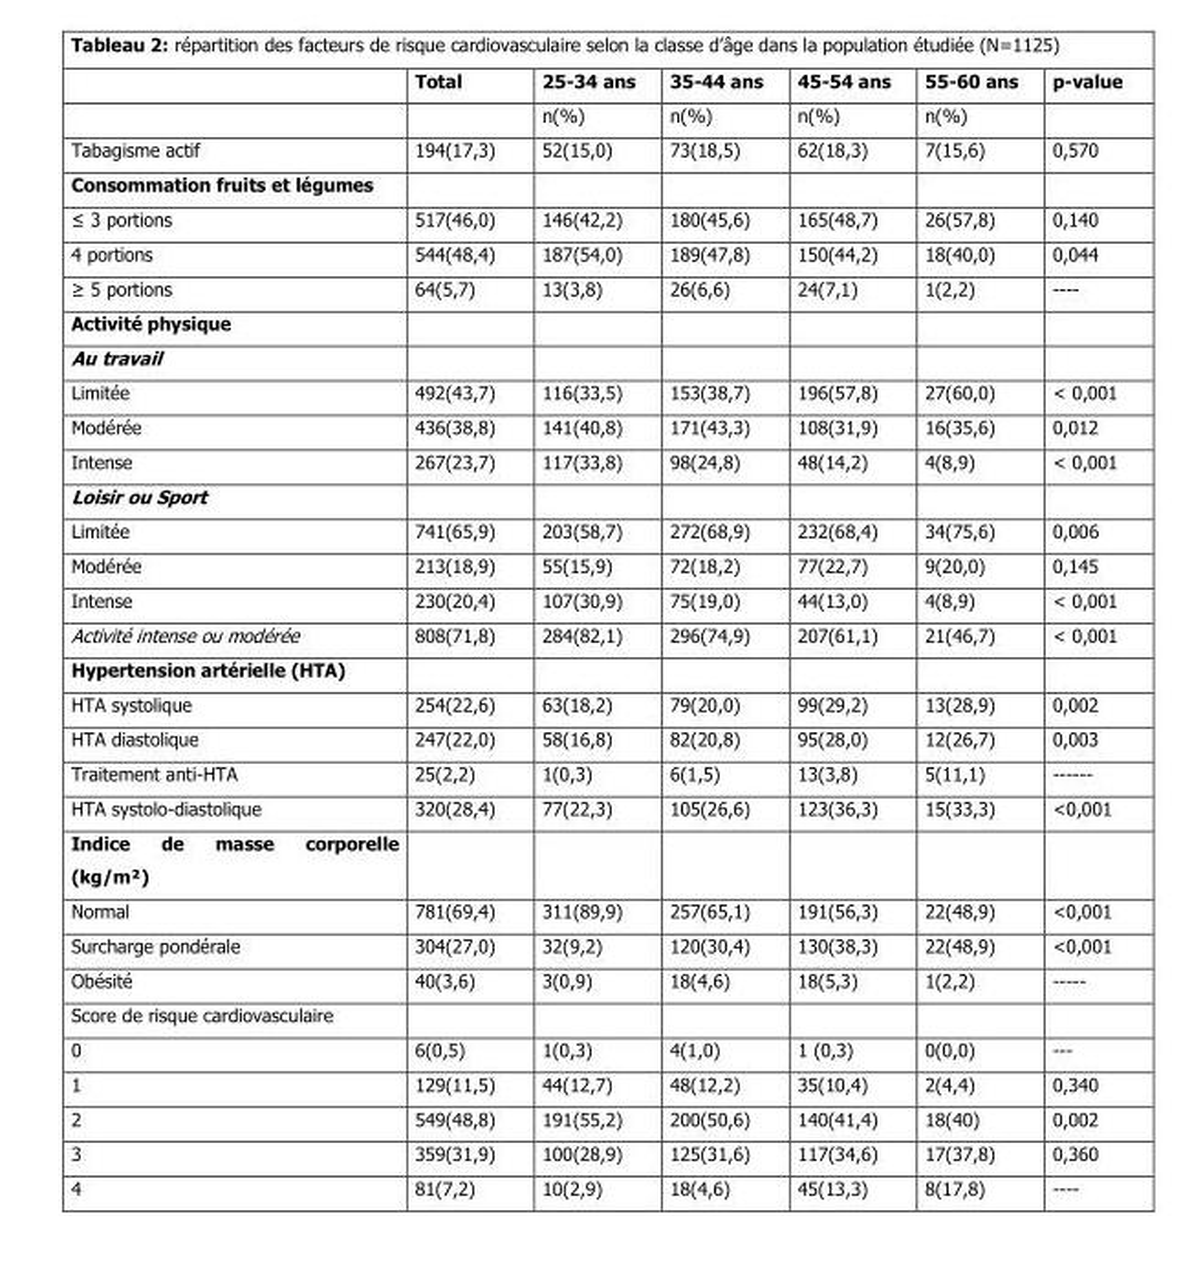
<table><thead><tr><td rowspan="2"></td><td rowspan="2">Total</td><td rowspan="2">25-34 ans n(%)</td><td rowspan="2">35-44 ans n(%)</td><td rowspan="2">45-54 ans n(%)</td><td rowspan="2">55-60 ans n(%)</td><td rowspan="2">p-value</td></tr><tr></tr></thead><tbody><tr><td>Tabagisme actif</td><td>194(17,3)</td><td>52(15,0)</td><td>73(18,5)</td><td>62(18,3)</td><td>7(15,6)</td><td>0,570</td></tr><tr><td colspan="7">Consommation fruits et légumes</td></tr><tr><td>≤ 3 portions</td><td>517(46,0)</td><td>146(42,2)</td><td>180(45,6)</td><td>165(48,7)</td><td>26(57,8)</td><td>0,140</td></tr><tr><td>4 portions</td><td>544(48,4)</td><td>187(54,0)</td><td>189(47,8)</td><td>150(44,2)</td><td>18(40,0)</td><td>0,044</td></tr><tr><td>≥ 5 portions</td><td>64(5,7)</td><td>13(3,8)</td><td>26(6,6)</td><td>24(7,1)</td><td>1(2,2)</td><td>----</td></tr><tr><td colspan="7">Activité physique</td></tr><tr><td colspan="7">Au travail</td></tr><tr><td>Limitée</td><td>492(43,7)</td><td>116(33,5)</td><td>153(38,7)</td><td>196(57,8)</td><td>27(60,0)</td><td>&lt; 0,001</td></tr><tr><td>Modérée</td><td>436(38,8)</td><td>141(40,8)</td><td>171(43,3)</td><td>108(31,9)</td><td>16(35,6)</td><td>0,012</td></tr><tr><td>Intense</td><td>267(23,7)</td><td>117(33,8)</td><td>98(24,8)</td><td>48(14,2)</td><td>4(8,9)</td><td>&lt; 0,001</td></tr><tr><td colspan="7">Loisir ou Sport</td></tr><tr><td>Limitée</td><td>741(65,9)</td><td>203(58,7)</td><td>272(68,9)</td><td>232(68,4)</td><td>34(75,6)</td><td>0,006</td></tr><tr><td>Modérée</td><td>213(18,9)</td><td>55(15,9)</td><td>72(18,2)</td><td>77(22,7)</td><td>9(20,0)</td><td>0,145</td></tr><tr><td>Intense</td><td>230(20,4)</td><td>107(30,9)</td><td>75(19,0)</td><td>44(13,0)</td><td>4(8,9)</td><td>&lt; 0,001</td></tr><tr><td>Activité intense ou modérée</td><td>808(71,8)</td><td>284(82,1)</td><td>296(74,9)</td><td>207(61,1)</td><td>21(46,7)</td><td>&lt; 0,001</td></tr><tr><td colspan="7">Hypertension artérielle (HTA)</td></tr><tr><td>HTA systolique</td><td>254(22,6)</td><td>63(18,2)</td><td>79(20,0)</td><td>99(29,2)</td><td>13(28,9)</td><td>0,002</td></tr><tr><td>HTA diastolique</td><td>247(22,0)</td><td>58(16,8)</td><td>82(20,8)</td><td>95(28,0)</td><td>12(26,7)</td><td>0,003</td></tr><tr><td>Traitement anti-HTA</td><td>25(2,2)</td><td>1(0,3)</td><td>6(1,5)</td><td>13(3,8)</td><td>5(11,1)</td><td>------</td></tr><tr><td>HTA systolo-diastolique</td><td>320(28,4)</td><td>77(22,3)</td><td>105(26,6)</td><td>123(36,3)</td><td>15(33,3)</td><td>&lt;0,001</td></tr><tr><td colspan="7">Indice de masse corporelle (kg/m²)</td></tr><tr><td>Normal</td><td>781(69,4)</td><td>311(89,9)</td><td>257(65,1)</td><td>191(56,3)</td><td>22(48,9)</td><td>&lt;0,001</td></tr><tr><td>Surcharge pondérale</td><td>304(27,0)</td><td>32(9,2)</td><td>120(30,4)</td><td>130(38,3)</td><td>22(48,9)</td><td>&lt;0,001</td></tr><tr><td>Obésité</td><td>40(3,6)</td><td>3(0,9)</td><td>18(4,6)</td><td>18(5,3)</td><td>1(2,2)</td><td>-----</td></tr><tr><td colspan="7">Score de risque cardiovasculaire</td></tr><tr><td>0</td><td>6(0,5)</td><td>1(0,3)</td><td>4(1,0)</td><td>1 (0,3)</td><td>0(0,0)</td><td>---</td></tr><tr><td>1</td><td>129(11,5)</td><td>44(12,7)</td><td>48(12,2)</td><td>35(10,4)</td><td>2(4,4)</td><td>0,340</td></tr><tr><td>2</td><td>549(48,8)</td><td>191(55,2)</td><td>200(50,6)</td><td>140(41,4)</td><td>18(40)</td><td>0,002</td></tr><tr><td>3</td><td>359(31,9)</td><td>100(28,9)</td><td>125(31,6)</td><td>117(34,6)</td><td>17(37,8)</td><td>0,360</td></tr><tr><td>4</td><td>81(7,2)</td><td>10(2,9)</td><td>18(4,6)</td><td>45(13,3)</td><td>8(17,8)</td><td>----</td></tr></tbody></table>